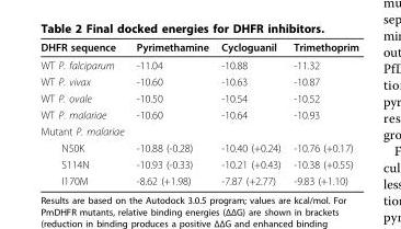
<table><thead><tr><td>DHFR sequence</td><td>Pyrimethamine</td><td>Cycloguanil</td><td>Trimethoprim</td></tr></thead><tbody><tr><td>WT P. falciparum</td><td>-11.04</td><td>-10.88</td><td>-11.32</td></tr><tr><td>WT P. vivax</td><td>-10.60</td><td>-10.63</td><td>-10.87</td></tr><tr><td>WT P. ovale</td><td>-10.50</td><td>-10.54</td><td>-10.52</td></tr><tr><td>WT P. malariae</td><td>-10.60</td><td>-10.64</td><td>-10.93</td></tr><tr><td colspan="4">Mutant P. malariae</td></tr><tr><td>N50K</td><td>-10.88 (-0.28)</td><td>-10.40 (+0.24)</td><td>-10.76 (+0.17)</td></tr><tr><td>S114N</td><td>-10.93 (-0.33)</td><td>-10.21 (+0.43)</td><td>-10.38 (+0.55)</td></tr><tr><td>I170M</td><td>-8.62 (+1.98)</td><td>-7.87 (+2.77)</td><td>-9.83 (+1.10)</td></tr></tbody></table>